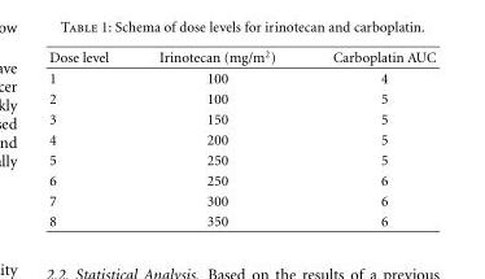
<table><thead><tr><td>Dose level</td><td>Irinotecan (mg/m<sup>2</sup>)</td><td>Carboplatin AUC</td></tr></thead><tbody><tr><td>1</td><td>100</td><td>4</td></tr><tr><td>2</td><td>100</td><td>5</td></tr><tr><td>3</td><td>150</td><td>5</td></tr><tr><td>4</td><td>200</td><td>5</td></tr><tr><td>5</td><td>250</td><td>5</td></tr><tr><td>6</td><td>250</td><td>6</td></tr><tr><td>7</td><td>300</td><td>6</td></tr><tr><td>8</td><td>350</td><td>6</td></tr></tbody></table>